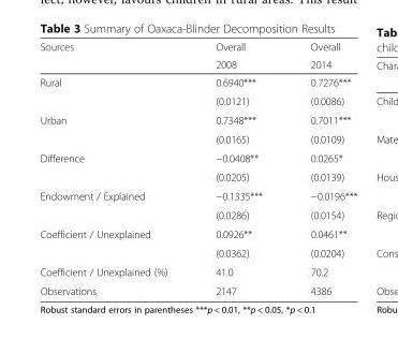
<table><thead><tr><td rowspan="2">Sources</td><td rowspan="2">Overall 2008</td><td rowspan="2">Overall 2014</td></tr><tr></tr></thead><tbody><tr><td rowspan="2">Rural</td><td>0.6940***</td><td>0.7276***</td></tr><tr><td>(0.0121)</td><td>(0.0086)</td></tr><tr><td rowspan="2">Urban</td><td>0.7348***</td><td>0.7011***</td></tr><tr><td>(0.0165)</td><td>(0.0109)</td></tr><tr><td rowspan="2">Difference</td><td>−0.0408**</td><td>0.0265*</td></tr><tr><td>(0.0205)</td><td>(0.0139)</td></tr><tr><td rowspan="2">Endowment / Explained</td><td>−0.1335***</td><td>−0.0196***</td></tr><tr><td>(0.0286)</td><td>(0.0154)</td></tr><tr><td rowspan="2">Coefficient / Unexplained</td><td>0.0926**</td><td>0.0461**</td></tr><tr><td>(0.0362)</td><td>(0.0204)</td></tr><tr><td>Coefficient / Unexplained (%)</td><td>41.0</td><td>70.2</td></tr><tr><td>Observations</td><td>2147</td><td>4386</td></tr></tbody></table>